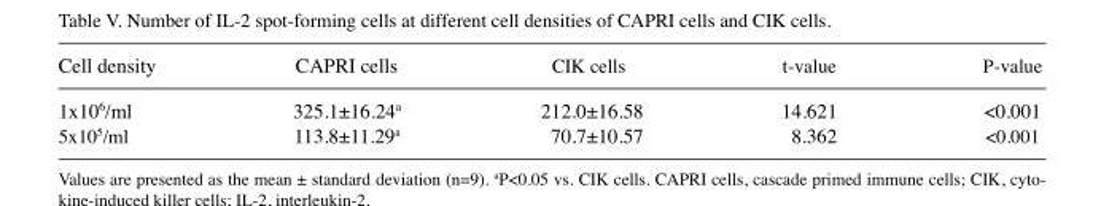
<table><thead><tr><td>Cell density</td><td>CAPRI cells</td><td>CIK cells</td><td>t-value</td><td>P-value</td></tr></thead><tbody><tr><td>1x106/ml</td><td>325.1±16.24<sup>a</sup></td><td>212.0±16.58</td><td>14.621</td><td>&lt;0.001</td></tr><tr><td>5x105/ml</td><td>113.8±11.29<sup>a</sup></td><td>70.7±10.57</td><td>8.362</td><td>&lt;0.001</td></tr></tbody></table>